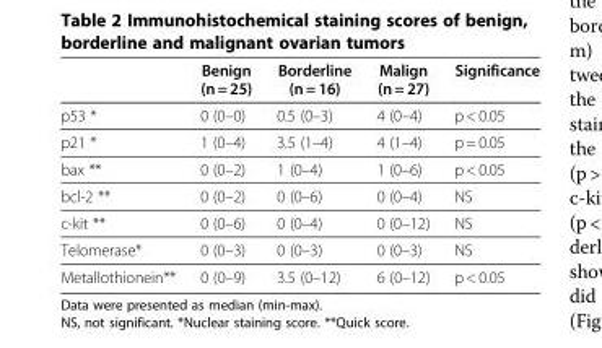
<table><thead><tr><td></td><td>Benign (n = 25)</td><td>Borderline (n = 16)</td><td>Malign (n = 27)</td><td>Significance</td></tr></thead><tbody><tr><td>p53 *</td><td>0 (0–0)</td><td>0.5 (0–3)</td><td>4 (0–4)</td><td>p &lt; 0.05</td></tr><tr><td>p21 *</td><td>1 (0–4)</td><td>3.5 (1–4)</td><td>4 (1–4)</td><td>p = 0.05</td></tr><tr><td>bax **</td><td>0 (0–2)</td><td>1 (0–4)</td><td>1 (0–6)</td><td>p &lt; 0.05</td></tr><tr><td>bcl-2 **</td><td>0 (0–2)</td><td>0 (0–6)</td><td>0 (0–4)</td><td>NS</td></tr><tr><td>c-kit **</td><td>0 (0–6)</td><td>0 (0–4)</td><td>0 (0–12)</td><td>NS</td></tr><tr><td>Telomerase*</td><td>0 (0–3)</td><td>0 (0–3)</td><td>0 (0–3)</td><td>NS</td></tr><tr><td>Metallothionein**</td><td>0 (0–9)</td><td>3.5 (0–12)</td><td>6 (0–12)</td><td>p &lt; 0.05</td></tr></tbody></table>